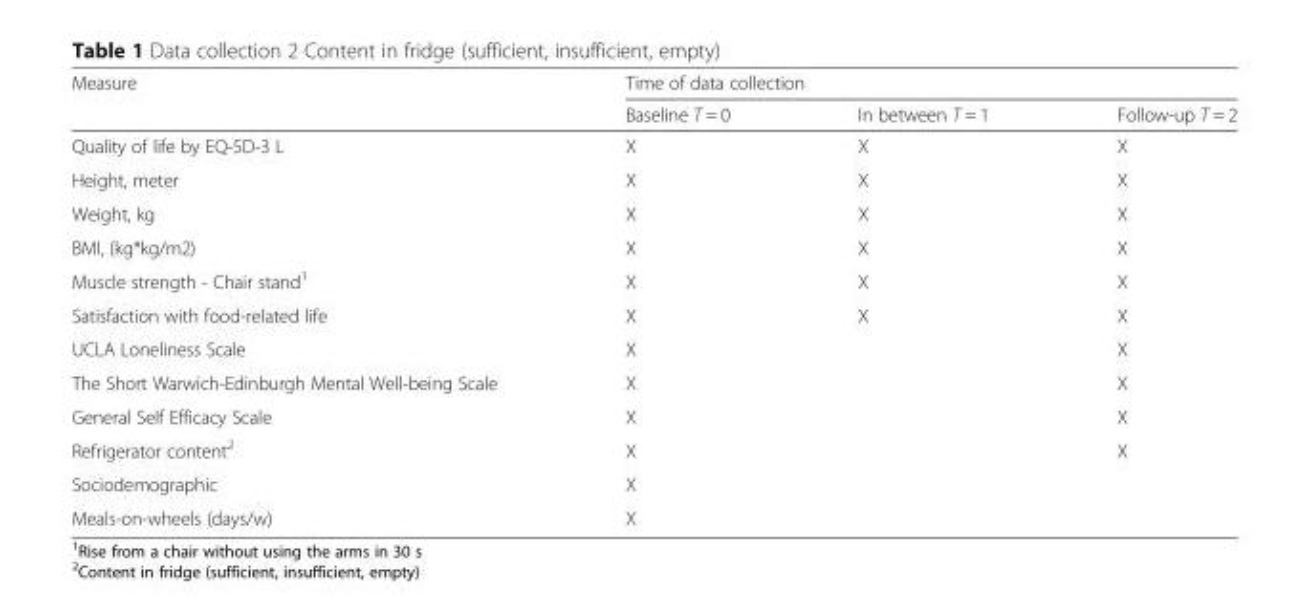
<table><thead><tr><td rowspan="2">Measure</td><td colspan="3">Time of data collection</td></tr><tr><td>Baseline T = 0</td><td>In between T = 1</td><td>Follow-up T = 2</td></tr></thead><tbody><tr><td>Quality of life by EQ-5D-3 L</td><td>X</td><td>X</td><td>X</td></tr><tr><td>Height, meter</td><td>X</td><td>X</td><td>X</td></tr><tr><td>Weight, kg</td><td>X</td><td>X</td><td>X</td></tr><tr><td>BMI, (kg*kg/m2)</td><td>X</td><td>X</td><td>X</td></tr><tr><td>Muscle strength - Chair stand<sup>1</sup></td><td>X</td><td>X</td><td>X</td></tr><tr><td>Satisfaction with food-related life</td><td>X</td><td>X</td><td>X</td></tr><tr><td>UCLA Loneliness Scale</td><td>X</td><td></td><td>X</td></tr><tr><td>The Short Warwich-Edinburgh Mental Well-being Scale</td><td>X</td><td></td><td>X</td></tr><tr><td>General Self Efficacy Scale</td><td>X</td><td></td><td>X</td></tr><tr><td>Refrigerator content<sup>2</sup></td><td>X</td><td></td><td>X</td></tr><tr><td>Sociodemographic</td><td>X</td><td></td><td></td></tr><tr><td>Meals-on-wheels (days/w)</td><td>X</td><td></td><td></td></tr></tbody></table>